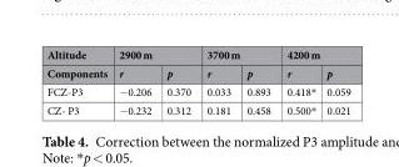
<table><thead><tr><td rowspan="2">Altitude Components</td><td colspan="2">2900 m</td><td colspan="2">3700 m</td><td colspan="2">4200 m</td></tr><tr><td>r</td><td>p</td><td>r</td><td>p</td><td>r</td><td>p</td></tr></thead><tbody><tr><td>FCZ-P3</td><td>−0.206</td><td>0.370</td><td>0.033</td><td>0.893</td><td>0.418*</td><td>0.059</td></tr><tr><td>CZ- P3</td><td>−0.232</td><td>0.312</td><td>0.181</td><td>0.458</td><td>0.500*</td><td>0.021</td></tr></tbody></table>